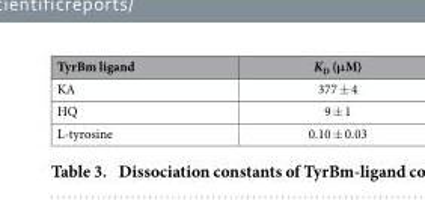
<table><thead><tr><td>TyrBm ligand</td><td>K<sub>D</sub> (μM)</td></tr></thead><tbody><tr><td>KA</td><td>377 ± 4</td></tr><tr><td>HQ</td><td>9 ± 1</td></tr><tr><td>L-tyrosine</td><td>0.10 ± 0.03</td></tr></tbody></table>